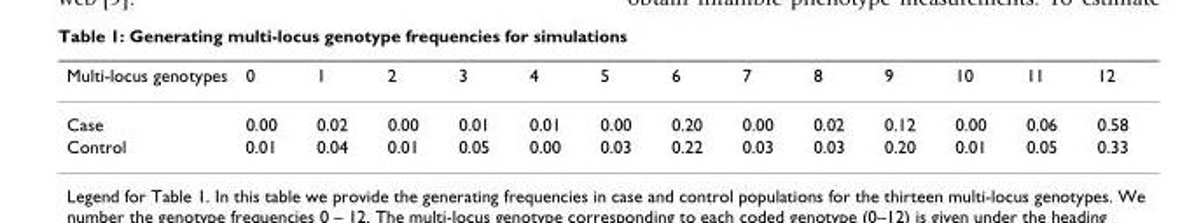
<table><thead><tr><td>Multi-locus genotypes</td><td>0</td><td>1</td><td>2</td><td>3</td><td>4</td><td>5</td><td>6</td><td>7</td><td>8</td><td>9</td><td>10</td><td>11</td><td>12</td></tr></thead><tbody><tr><td>Case</td><td>0.00</td><td>0.02</td><td>0.00</td><td>0.01</td><td>0.01</td><td>0.00</td><td>0.20</td><td>0.00</td><td>0.02</td><td>0.12</td><td>0.00</td><td>0.06</td><td>0.58</td></tr><tr><td>Control</td><td>0.01</td><td>0.04</td><td>0.01</td><td>0.05</td><td>0.00</td><td>0.03</td><td>0.22</td><td>0.03</td><td>0.03</td><td>0.20</td><td>0.01</td><td>0.05</td><td>0.33</td></tr></tbody></table>